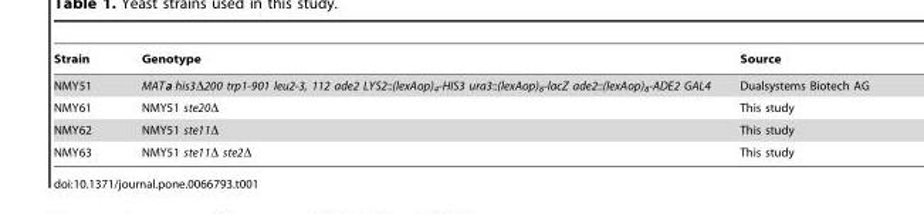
<table><thead><tr><td>Strain</td><td>Genotype</td><td>Source</td></tr></thead><tbody><tr><td>NMY51</td><td>MATa his3Δ200 trp1-901 leu2-3, 112 ade2 LYS2::(lexAop)<sub>4</sub>-HIS3 ura3::(lexAop)<sub>8</sub>-lacZ ade2::(lexAop)<sub>8</sub>-ADE2 GAL4</td><td>Dualsystems Biotech AG</td></tr><tr><td>NMY61</td><td>NMY51 ste20Δ</td><td>This study</td></tr><tr><td>NMY62</td><td>NMY51 ste11Δ</td><td>This study</td></tr><tr><td>NMY63</td><td>NMY51 ste11Δ ste2Δ</td><td>This study</td></tr></tbody></table>